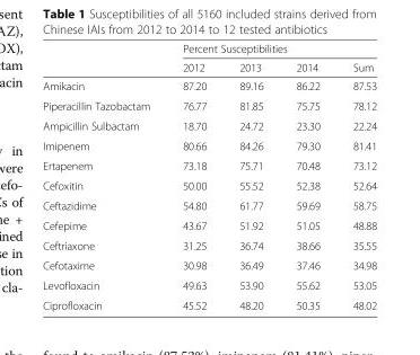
<table><thead><tr><td rowspan="2"></td><td colspan="4">Percent Susceptibilities</td></tr><tr><td>2012</td><td>2013</td><td>2014</td><td>Sum</td></tr></thead><tbody><tr><td>Amikacin</td><td>87.20</td><td>89.16</td><td>86.22</td><td>87.53</td></tr><tr><td>Piperacillin Tazobactam</td><td>76.77</td><td>81.85</td><td>75.75</td><td>78.12</td></tr><tr><td>Ampicillin Sulbactam</td><td>18.70</td><td>24.72</td><td>23.30</td><td>22.24</td></tr><tr><td>Imipenem</td><td>80.66</td><td>84.26</td><td>79.30</td><td>81.41</td></tr><tr><td>Ertapenem</td><td>73.18</td><td>75.71</td><td>70.48</td><td>73.12</td></tr><tr><td>Cefoxitin</td><td>50.00</td><td>55.52</td><td>52.38</td><td>52.64</td></tr><tr><td>Ceftazidime</td><td>54.80</td><td>61.77</td><td>59.69</td><td>58.75</td></tr><tr><td>Cefepime</td><td>43.67</td><td>51.92</td><td>51.05</td><td>48.88</td></tr><tr><td>Ceftriaxone</td><td>31.25</td><td>36.74</td><td>38.66</td><td>35.55</td></tr><tr><td>Cefotaxime</td><td>30.98</td><td>36.49</td><td>37.46</td><td>34.98</td></tr><tr><td>Levofloxacin</td><td>49.63</td><td>53.90</td><td>55.62</td><td>53.05</td></tr><tr><td>Ciprofloxacin</td><td>45.52</td><td>48.20</td><td>50.35</td><td>48.02</td></tr></tbody></table>